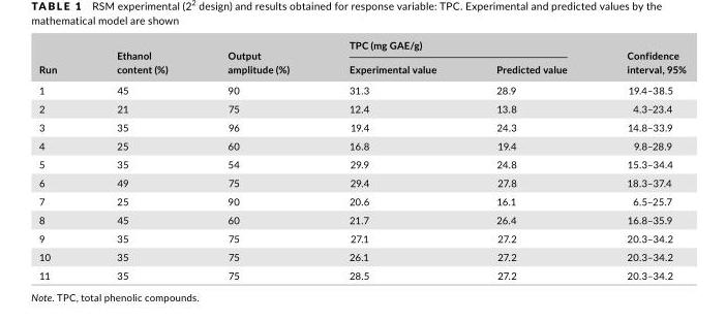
<table><thead><tr><td rowspan="2">Run</td><td rowspan="2">Ethanol content (%)</td><td rowspan="2">Output amplitude (%)</td><td colspan="2">TPC (mg GAE/g)</td><td rowspan="2">Confidence interval, 95%</td></tr><tr><td>Experimental value</td><td>Predicted value</td></tr></thead><tbody><tr><td>1</td><td>45</td><td>90</td><td>31.3</td><td>28.9</td><td>19.4–38.5</td></tr><tr><td>2</td><td>21</td><td>75</td><td>12.4</td><td>13.8</td><td>4.3–23.4</td></tr><tr><td>3</td><td>35</td><td>96</td><td>19.4</td><td>24.3</td><td>14.8–33.9</td></tr><tr><td>4</td><td>25</td><td>60</td><td>16.8</td><td>19.4</td><td>9.8–28.9</td></tr><tr><td>5</td><td>35</td><td>54</td><td>29.9</td><td>24.8</td><td>15.3–34.4</td></tr><tr><td>6</td><td>49</td><td>75</td><td>29.4</td><td>27.8</td><td>18.3–37.4</td></tr><tr><td>7</td><td>25</td><td>90</td><td>20.6</td><td>16.1</td><td>6.5–25.7</td></tr><tr><td>8</td><td>45</td><td>60</td><td>21.7</td><td>26.4</td><td>16.8–35.9</td></tr><tr><td>9</td><td>35</td><td>75</td><td>27.1</td><td>27.2</td><td>20.3–34.2</td></tr><tr><td>10</td><td>35</td><td>75</td><td>26.1</td><td>27.2</td><td>20.3–34.2</td></tr><tr><td>11</td><td>35</td><td>75</td><td>28.5</td><td>27.2</td><td>20.3–34.2</td></tr></tbody></table>